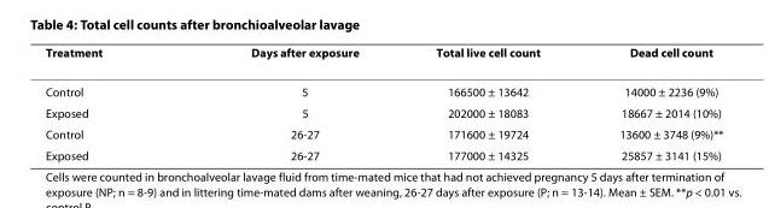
<table><thead><tr><td>Treatment</td><td>Days after exposure</td><td>Total live cell count</td><td>Dead cell count</td></tr></thead><tbody><tr><td>Control</td><td>5</td><td>166500 ± 13642</td><td>14000 ± 2236 (9%)</td></tr><tr><td>Exposed</td><td>5</td><td>202000 ± 18083</td><td>18667 ± 2014 (10%)</td></tr><tr><td>Control</td><td>26-27</td><td>171600 ± 19724</td><td>13600 ± 3748 (9%)**</td></tr><tr><td>Exposed</td><td>26-27</td><td>177000 ± 14325</td><td>25857 ± 3141 (15%)</td></tr></tbody></table>